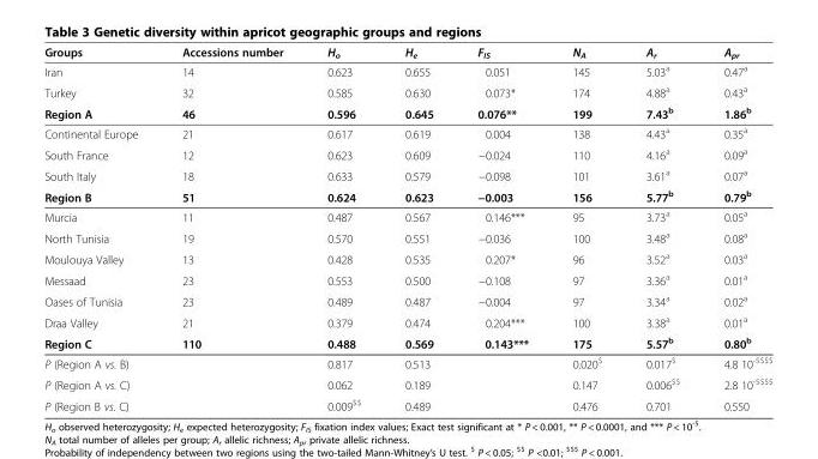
<table><thead><tr><td>Groups</td><td>Accessions number</td><td>H<sub>o</sub></td><td>H<sub>e</sub></td><td>F<sub>IS</sub></td><td>N<sub>A</sub></td><td>A<sub>r</sub></td><td>A<sub>pr</sub></td></tr></thead><tbody><tr><td>Iran</td><td>14</td><td>0.623</td><td>0.655</td><td>0.051</td><td>145</td><td>5.03<sup>a</sup></td><td>0.47<sup>a</sup></td></tr><tr><td>Turkey</td><td>32</td><td>0.585</td><td>0.630</td><td>0.073*</td><td>174</td><td>4.88<sup>a</sup></td><td>0.43<sup>a</sup></td></tr><tr><td>Region A</td><td>46</td><td>0.596</td><td>0.645</td><td>0.076**</td><td>199</td><td>7.43<sup>b</sup></td><td>1.86<sup>b</sup></td></tr><tr><td>Continental Europe</td><td>21</td><td>0.617</td><td>0.619</td><td>0.004</td><td>138</td><td>4.43<sup>a</sup></td><td>0.35<sup>a</sup></td></tr><tr><td>South France</td><td>12</td><td>0.623</td><td>0.609</td><td>−0.024</td><td>110</td><td>4.16<sup>a</sup></td><td>0.09<sup>a</sup></td></tr><tr><td>South Italy</td><td>18</td><td>0.633</td><td>0.579</td><td>−0.098</td><td>101</td><td>3.61<sup>a</sup></td><td>0.07<sup>a</sup></td></tr><tr><td>Region B</td><td>51</td><td>0.624</td><td>0.623</td><td>−0.003</td><td>156</td><td>5.77<sup>b</sup></td><td>0.79<sup>b</sup></td></tr><tr><td>Murcia</td><td>11</td><td>0.487</td><td>0.567</td><td>0.146***</td><td>95</td><td>3.73<sup>a</sup></td><td>0.05<sup>a</sup></td></tr><tr><td>North Tunisia</td><td>19</td><td>0.570</td><td>0.551</td><td>−0.036</td><td>100</td><td>3.48<sup>a</sup></td><td>0.08<sup>a</sup></td></tr><tr><td>Moulouya Valley</td><td>13</td><td>0.428</td><td>0.535</td><td>0.207*</td><td>96</td><td>3.52<sup>a</sup></td><td>0.03<sup>a</sup></td></tr><tr><td>Messaad</td><td>23</td><td>0.553</td><td>0.500</td><td>−0.108</td><td>97</td><td>3.36<sup>a</sup></td><td>0.01<sup>a</sup></td></tr><tr><td>Oases of Tunisia</td><td>23</td><td>0.489</td><td>0.487</td><td>−0.004</td><td>97</td><td>3.34<sup>a</sup></td><td>0.02<sup>a</sup></td></tr><tr><td>Draa Valley</td><td>21</td><td>0.379</td><td>0.474</td><td>0.204***</td><td>100</td><td>3.38<sup>a</sup></td><td>0.01<sup>a</sup></td></tr><tr><td>Region C</td><td>110</td><td>0.488</td><td>0.569</td><td>0.143***</td><td>175</td><td>5.57<sup>b</sup></td><td>0.80<sup>b</sup></td></tr><tr><td>P (Region A vs. B)</td><td></td><td>0.817</td><td>0.513</td><td></td><td>0.020<sup>$</sup></td><td>0.017<sup>$</sup></td><td>4.8 10<sup>-5$$$</sup></td></tr><tr><td>P (Region A vs. C)</td><td></td><td>0.062</td><td>0.189</td><td></td><td>0.147</td><td>0.006<sup>$$</sup></td><td>2.8 10<sup>-5$$$</sup></td></tr><tr><td>P (Region B vs. C)</td><td></td><td>0.009<sup>$$</sup></td><td>0.489</td><td></td><td>0.476</td><td>0.701</td><td>0.550</td></tr></tbody></table>